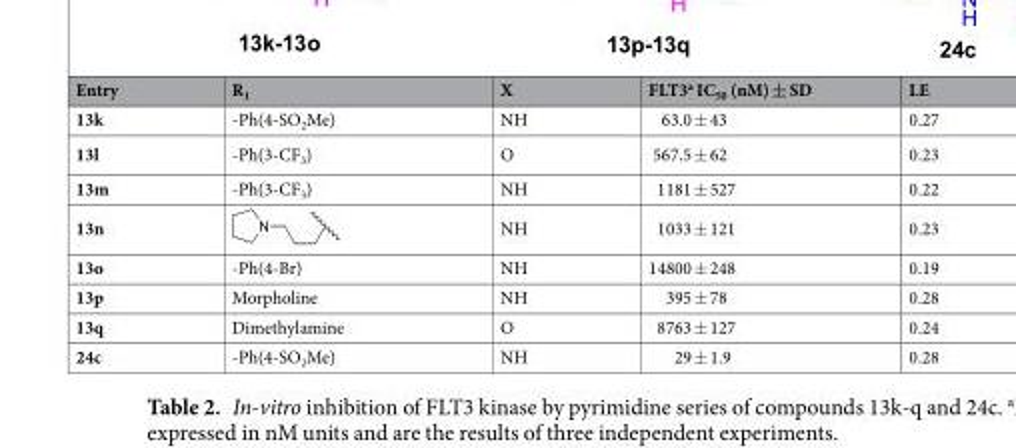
<table><thead><tr><td>Entry</td><td>R<sub>1</sub></td><td>X</td><td>FLT3<sup>a</sup> IC<sub>50</sub> (nM) ± SD</td><td>LE</td></tr></thead><tbody><tr><td>13k</td><td>-Ph(4-SO<sub>2</sub>Me)</td><td>NH</td><td>63.0 ± 43</td><td>0.27</td></tr><tr><td>13l</td><td>-Ph(3-CF<sub>3</sub>)</td><td>O</td><td>567.5 ± 62</td><td>0.23</td></tr><tr><td>13m</td><td>-Ph(3-CF<sub>3</sub>)</td><td>NH</td><td>1181 ± 527</td><td>0.22</td></tr><tr><td>13n</td><td>N</td><td>NH</td><td>1033 ± 121</td><td>0.23</td></tr><tr><td>13o</td><td>-Ph(4-Br)</td><td>NH</td><td>14800 ± 248</td><td>0.19</td></tr><tr><td>13p</td><td>Morpholine</td><td>NH</td><td>395 ± 78</td><td>0.28</td></tr><tr><td>13q</td><td>Dimethylamine</td><td>O</td><td>8763 ± 127</td><td>0.24</td></tr><tr><td>24c</td><td>-Ph(4-SO<sub>2</sub>Me)</td><td>NH</td><td>29 ± 1.9</td><td>0.28</td></tr></tbody></table>